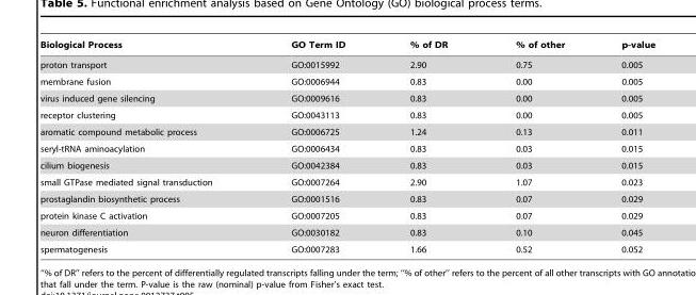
<table><thead><tr><td>Biological Process</td><td>GO Term ID</td><td>% of DR</td><td>% of other</td><td>p-value</td></tr></thead><tbody><tr><td>proton transport</td><td>GO:0015992</td><td>2.90</td><td>0.75</td><td>0.005</td></tr><tr><td>membrane fusion</td><td>GO:0006944</td><td>0.83</td><td>0.00</td><td>0.005</td></tr><tr><td>virus induced gene silencing</td><td>GO:0009616</td><td>0.83</td><td>0.00</td><td>0.005</td></tr><tr><td>receptor clustering</td><td>GO:0043113</td><td>0.83</td><td>0.00</td><td>0.005</td></tr><tr><td>aromatic compound metabolic process</td><td>GO:0006725</td><td>1.24</td><td>0.13</td><td>0.011</td></tr><tr><td>seryl-tRNA aminoacylation</td><td>GO:0006434</td><td>0.83</td><td>0.03</td><td>0.015</td></tr><tr><td>cilium biogenesis</td><td>GO:0042384</td><td>0.83</td><td>0.03</td><td>0.015</td></tr><tr><td>small GTPase mediated signal transduction</td><td>GO:0007264</td><td>2.90</td><td>1.07</td><td>0.023</td></tr><tr><td>prostaglandin biosynthetic process</td><td>GO:0001516</td><td>0.83</td><td>0.07</td><td>0.029</td></tr><tr><td>protein kinase C activation</td><td>GO:0007205</td><td>0.83</td><td>0.07</td><td>0.029</td></tr><tr><td>neuron differentiation</td><td>GO:0030182</td><td>0.83</td><td>0.10</td><td>0.045</td></tr><tr><td>spermatogenesis</td><td>GO:0007283</td><td>1.66</td><td>0.52</td><td>0.052</td></tr></tbody></table>